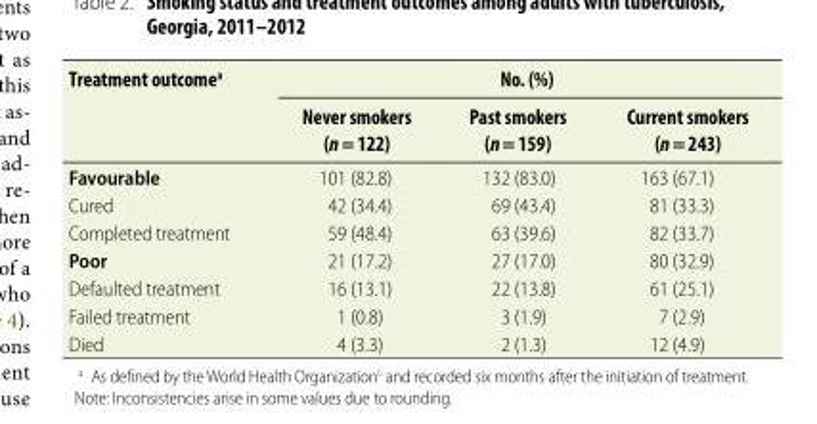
<table><thead><tr><td rowspan="2">Treatment outcome<sup>a</sup></td><td colspan="3">No. (%)</td></tr><tr><td>Never smokers (n = 122)</td><td>Past smokers (n = 159)</td><td>Current smokers (n = 243)</td></tr></thead><tbody><tr><td>Favourable</td><td>101 (82.8)</td><td>132 (83.0)</td><td>163 (67.1)</td></tr><tr><td>Cured</td><td>42 (34.4)</td><td>69 (43.4)</td><td>81 (33.3)</td></tr><tr><td>Completed treatment</td><td>59 (48.4)</td><td>63 (39.6)</td><td>82 (33.7)</td></tr><tr><td>Poor</td><td>21 (17.2)</td><td>27 (17.0)</td><td>80 (32.9)</td></tr><tr><td>Defaulted treatment</td><td>16 (13.1)</td><td>22 (13.8)</td><td>61 (25.1)</td></tr><tr><td>Failed treatment</td><td>1 (0.8)</td><td>3 (1.9)</td><td>7 (2.9)</td></tr><tr><td>Died</td><td>4 (3.3)</td><td>2 (1.3)</td><td>12 (4.9)</td></tr></tbody></table>